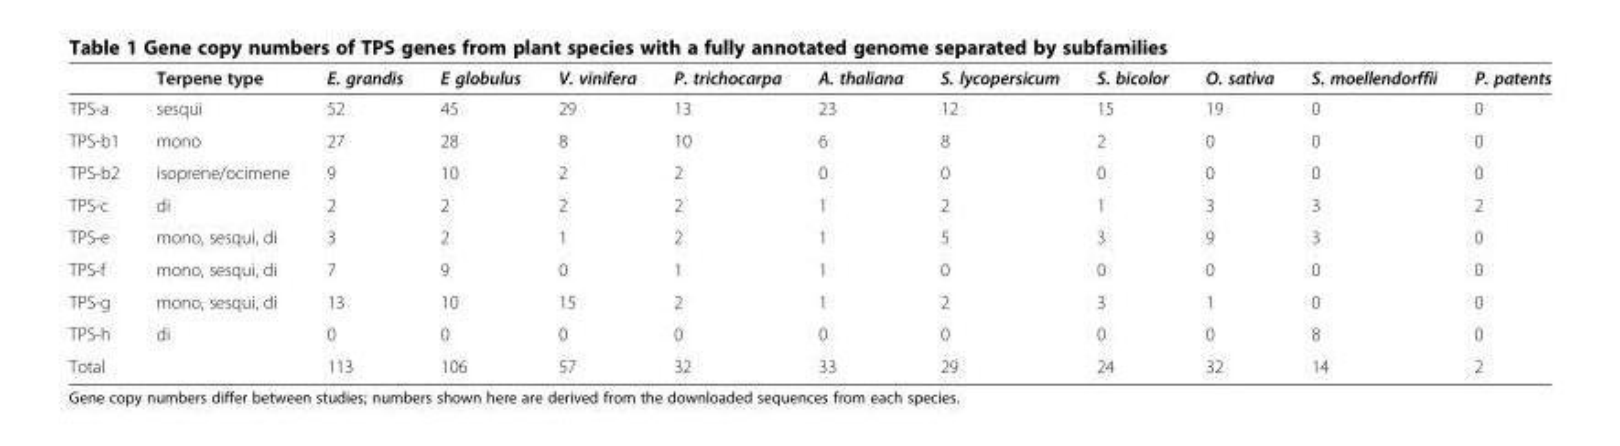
<table><thead><tr><td></td><td>Terpene type</td><td>E. grandis</td><td>E globulus</td><td>V. vinifera</td><td>P. trichocarpa</td><td>A. thaliana</td><td>S. lycopersicum</td><td>S. bicolor</td><td>O. sativa</td><td>S. moellendorffii</td><td>P. patents</td></tr></thead><tbody><tr><td>TPS-a</td><td>sesqui</td><td>52</td><td>45</td><td>29</td><td>13</td><td>23</td><td>12</td><td>15</td><td>19</td><td>0</td><td>0</td></tr><tr><td>TPS-b1</td><td>mono</td><td>27</td><td>28</td><td>8</td><td>10</td><td>6</td><td>8</td><td>2</td><td>0</td><td>0</td><td>0</td></tr><tr><td>TPS-b2</td><td>isoprene/ocimene</td><td>9</td><td>10</td><td>2</td><td>2</td><td>0</td><td>0</td><td>0</td><td>0</td><td>0</td><td>0</td></tr><tr><td>TPS-c</td><td>di</td><td>2</td><td>2</td><td>2</td><td>2</td><td>1</td><td>2</td><td>1</td><td>3</td><td>3</td><td>2</td></tr><tr><td>TPS-e</td><td>mono, sesqui, di</td><td>3</td><td>2</td><td>1</td><td>2</td><td>1</td><td>5</td><td>3</td><td>9</td><td>3</td><td>0</td></tr><tr><td>TPS-f</td><td>mono, sesqui, di</td><td>7</td><td>9</td><td>0</td><td>1</td><td>1</td><td>0</td><td>0</td><td>0</td><td>0</td><td>0</td></tr><tr><td>TPS-g</td><td>mono, sesqui, di</td><td>13</td><td>10</td><td>15</td><td>2</td><td>1</td><td>2</td><td>3</td><td>1</td><td>0</td><td>0</td></tr><tr><td>TPS-h</td><td>di</td><td>0</td><td>0</td><td>0</td><td>0</td><td>0</td><td>0</td><td>0</td><td>0</td><td>8</td><td>0</td></tr><tr><td>Total</td><td></td><td>113</td><td>106</td><td>57</td><td>32</td><td>33</td><td>29</td><td>24</td><td>32</td><td>14</td><td>2</td></tr></tbody></table>